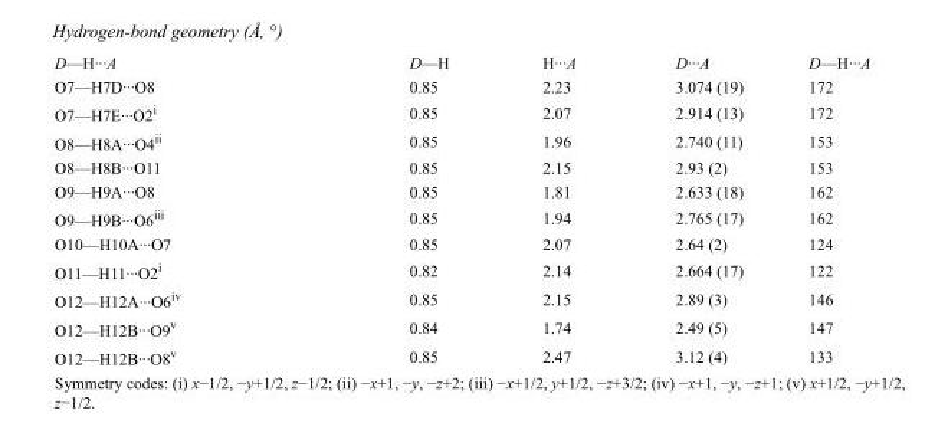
<table><tbody><tr><td>D—H···A</td><td>D—H</td><td>H···A</td><td>D···A</td><td>D—H···A</td></tr><tr><td>O7—H7D···O8</td><td>0.85</td><td>2.23</td><td>3.074 (19)</td><td>172</td></tr><tr><td>O7—H7E···O2<sup>i</sup></td><td>0.85</td><td>2.07</td><td>2.914 (13)</td><td>172</td></tr><tr><td>O8—H8A···O4<sup>ii</sup></td><td>0.85</td><td>1.96</td><td>2.740 (11)</td><td>153</td></tr><tr><td>O8—H8B···O11</td><td>0.85</td><td>2.15</td><td>2.93 (2)</td><td>153</td></tr><tr><td>O9—H9A···O8</td><td>0.85</td><td>1.81</td><td>2.633 (18)</td><td>162</td></tr><tr><td>O9—H9B···O6<sup>iii</sup></td><td>0.85</td><td>1.94</td><td>2.765 (17)</td><td>162</td></tr><tr><td>O10—H10A···O7</td><td>0.85</td><td>2.07</td><td>2.64 (2)</td><td>124</td></tr><tr><td>O11—H11···O2<sup>i</sup></td><td>0.82</td><td>2.14</td><td>2.664 (17)</td><td>122</td></tr><tr><td>O12—H12A···O6<sup>iv</sup></td><td>0.85</td><td>2.15</td><td>2.89 (3)</td><td>146</td></tr><tr><td>O12—H12B···O9<sup>v</sup></td><td>0.84</td><td>1.74</td><td>2.49 (5)</td><td>147</td></tr><tr><td>O12—H12B···O8<sup>v</sup></td><td>0.85</td><td>2.47</td><td>3.12 (4)</td><td>133</td></tr></tbody></table>